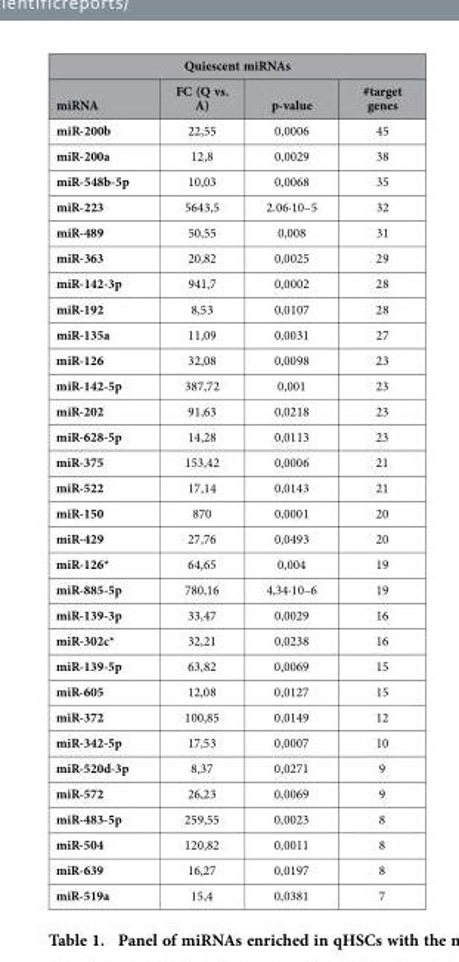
<table><thead><tr><td colspan="4">Quiescent miRNAs</td></tr><tr><td>miRNA</td><td>FC (Q vs. A)</td><td>p-value</td><td>#target genes</td></tr></thead><tbody><tr><td>miR-200b</td><td>22,55</td><td>0,0006</td><td>45</td></tr><tr><td>miR-200a</td><td>12,8</td><td>0,0029</td><td>38</td></tr><tr><td>miR-548b-5p</td><td>10,03</td><td>0,0068</td><td>35</td></tr><tr><td>miR-223</td><td>5643,5</td><td>2.06·10–5</td><td>32</td></tr><tr><td>miR-489</td><td>50,55</td><td>0,008</td><td>31</td></tr><tr><td>miR-363</td><td>20,82</td><td>0,0025</td><td>29</td></tr><tr><td>miR-142-3p</td><td>941,7</td><td>0,0002</td><td>28</td></tr><tr><td>miR-192</td><td>8,53</td><td>0,0107</td><td>28</td></tr><tr><td>miR-135a</td><td>11,09</td><td>0,0031</td><td>27</td></tr><tr><td>miR-126</td><td>32,08</td><td>0,0098</td><td>23</td></tr><tr><td>miR-142-5p</td><td>387,72</td><td>0,001</td><td>23</td></tr><tr><td>miR-202</td><td>91,63</td><td>0,0218</td><td>23</td></tr><tr><td>miR-628-5p</td><td>14,28</td><td>0,0113</td><td>23</td></tr><tr><td>miR-375</td><td>153,42</td><td>0,0006</td><td>21</td></tr><tr><td>miR-522</td><td>17,14</td><td>0,0143</td><td>21</td></tr><tr><td>miR-150</td><td>870</td><td>0,0001</td><td>20</td></tr><tr><td>miR-429</td><td>27,76</td><td>0,0493</td><td>20</td></tr><tr><td>miR-126*</td><td>64,65</td><td>0,004</td><td>19</td></tr><tr><td>miR-885-5p</td><td>780,16</td><td>4,34·10–6</td><td>19</td></tr><tr><td>miR-139-3p</td><td>33,47</td><td>0,0029</td><td>16</td></tr><tr><td>miR-302c*</td><td>32,21</td><td>0,0238</td><td>16</td></tr><tr><td>miR-139-5p</td><td>63,82</td><td>0,0069</td><td>15</td></tr><tr><td>miR-605</td><td>12,08</td><td>0,0127</td><td>15</td></tr><tr><td>miR-372</td><td>100,85</td><td>0,0149</td><td>12</td></tr><tr><td>miR-342-5p</td><td>17,53</td><td>0,0007</td><td>10</td></tr><tr><td>miR-520d-3p</td><td>8,37</td><td>0,0271</td><td>9</td></tr><tr><td>miR-572</td><td>26,23</td><td>0,0069</td><td>9</td></tr><tr><td>miR-483-5p</td><td>259,55</td><td>0,0023</td><td>8</td></tr><tr><td>miR-504</td><td>120,82</td><td>0,0011</td><td>8</td></tr><tr><td>miR-639</td><td>16,27</td><td>0,0197</td><td>8</td></tr><tr><td>miR-519a</td><td>15,4</td><td>0,0381</td><td>7</td></tr></tbody></table>